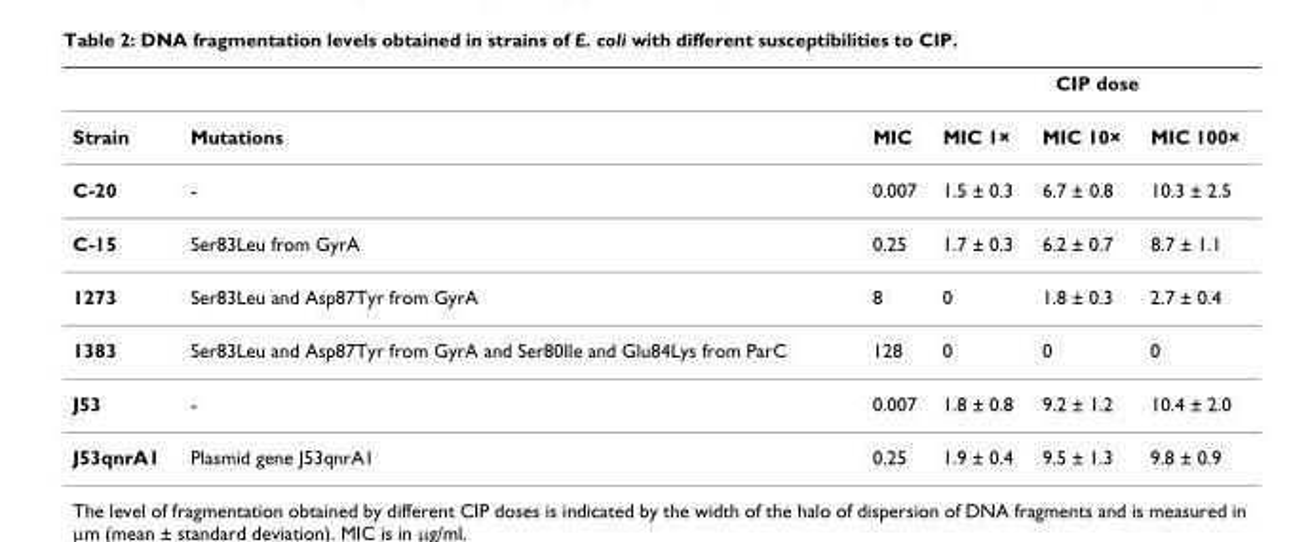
<table><thead><tr><td rowspan="2">Strain</td><td rowspan="2">Mutations</td><td rowspan="2">MIC</td><td colspan="3">CIP dose</td></tr><tr><td>MIC 1×</td><td>MIC 10×</td><td>MIC 100×</td></tr></thead><tbody><tr><td>C-20</td><td>-</td><td>0.007</td><td>1.5 ± 0.3</td><td>6.7 ± 0.8</td><td>10.3 ± 2.5</td></tr><tr><td>C-15</td><td>Ser83Leu from GyrA</td><td>0.25</td><td>1.7 ± 0.3</td><td>6.2 ± 0.7</td><td>8.7 ± 1.1</td></tr><tr><td>1273</td><td>Ser83Leu and Asp87Tyr from GyrA</td><td>8</td><td>0</td><td>1.8 ± 0.3</td><td>2.7 ± 0.4</td></tr><tr><td>1383</td><td>Ser83Leu and Asp87Tyr from GyrA and Ser80Ile and Glu84Lys from ParC</td><td>128</td><td>0</td><td>0</td><td>0</td></tr><tr><td>J53</td><td>-</td><td>0.007</td><td>1.8 ± 0.8</td><td>9.2 ± 1.2</td><td>10.4 ± 2.0</td></tr><tr><td>J53qnrA1</td><td>Plasmid gene J53qnrA1</td><td>0.25</td><td>1.9 ± 0.4</td><td>9.5 ± 1.3</td><td>9.8 ± 0.9</td></tr></tbody></table>